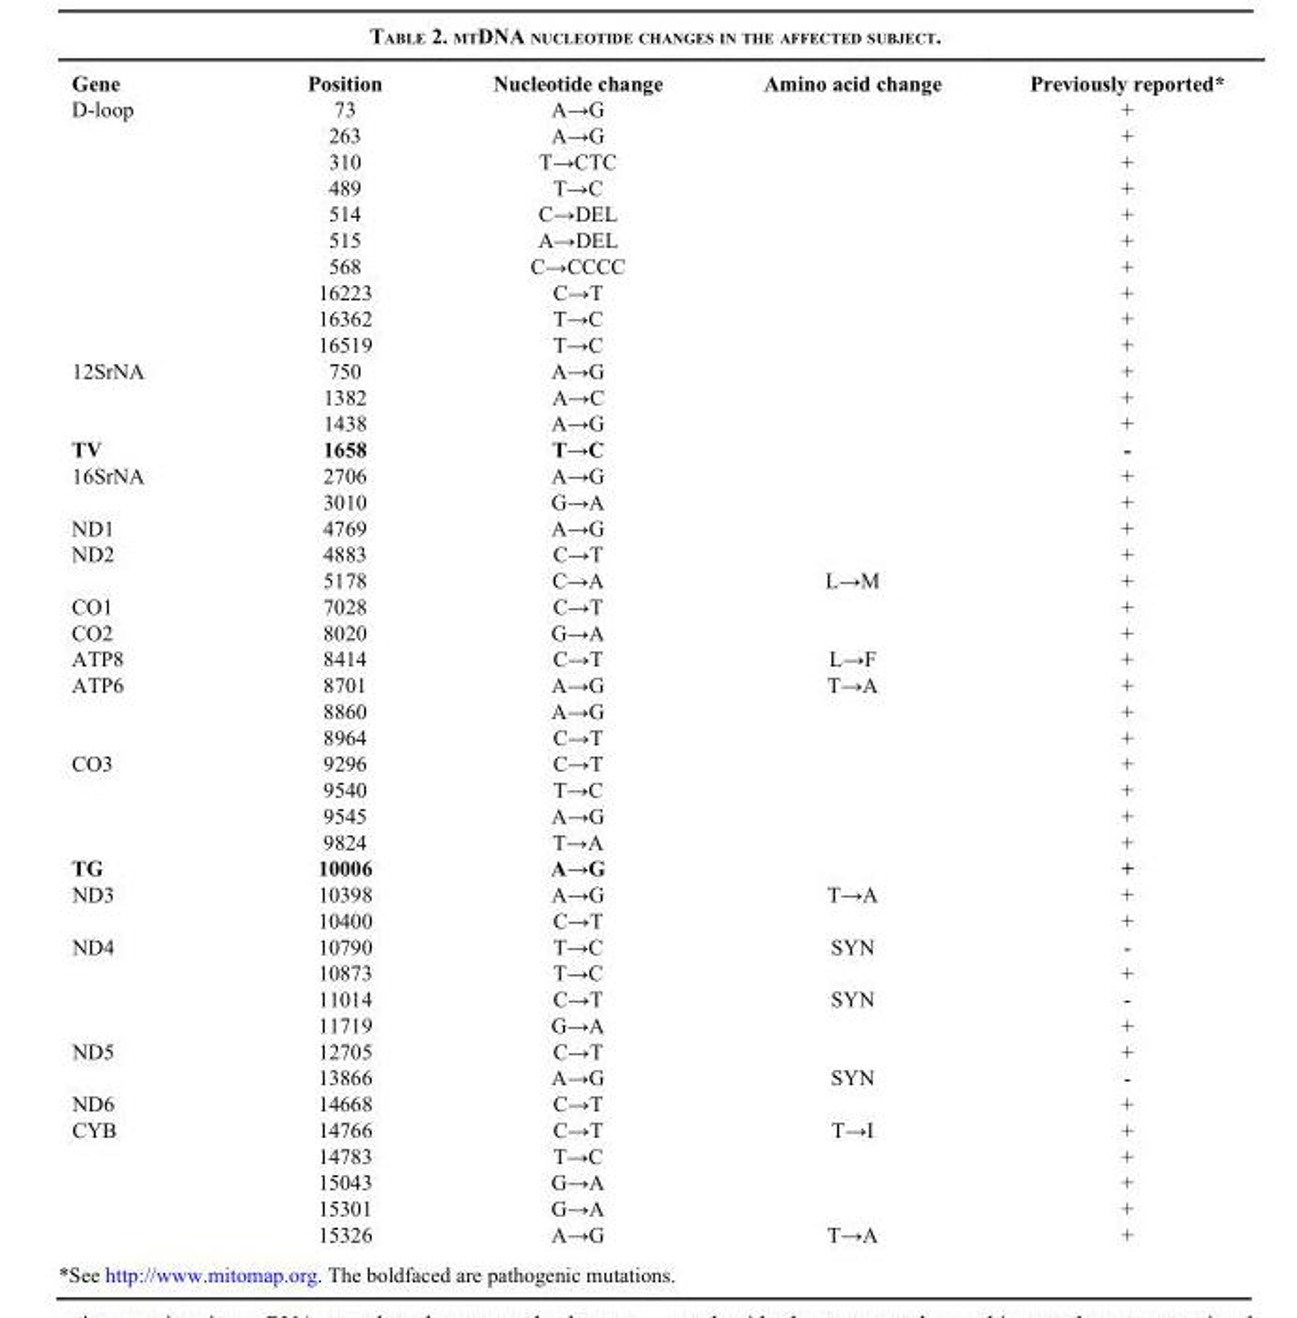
<table><thead><tr><td>Gene</td><td>Position</td><td>Nucleotide change</td><td>Amino acid change</td><td>Previously reported*</td></tr></thead><tbody><tr><td rowspan="10">D-loop</td><td>73</td><td>A→G</td><td></td><td>+</td></tr><tr><td>263</td><td>A→G</td><td></td><td>+</td></tr><tr><td>310</td><td>T→CTC</td><td></td><td>+</td></tr><tr><td>489</td><td>T→C</td><td></td><td>+</td></tr><tr><td>514</td><td>C→DEL</td><td></td><td>+</td></tr><tr><td>515</td><td>A→DEL</td><td></td><td>+</td></tr><tr><td>568</td><td>C→CCCC</td><td></td><td>+</td></tr><tr><td>16223</td><td>C→T</td><td></td><td>+</td></tr><tr><td>16362</td><td>T→C</td><td></td><td>+</td></tr><tr><td>16519</td><td>T→C</td><td></td><td>+</td></tr><tr><td rowspan="3">12SrNA</td><td>750</td><td>A→G</td><td></td><td>+</td></tr><tr><td>1382</td><td>A→C</td><td></td><td>+</td></tr><tr><td>1438</td><td>A→G</td><td></td><td>+</td></tr><tr><td>TV</td><td>1658</td><td>T→C</td><td></td><td>-</td></tr><tr><td rowspan="2">16SrNA</td><td>2706</td><td>A→G</td><td></td><td>+</td></tr><tr><td>3010</td><td>G→A</td><td></td><td>+</td></tr><tr><td>ND1</td><td>4769</td><td>A→G</td><td></td><td>+</td></tr><tr><td rowspan="2">ND2</td><td>4883</td><td>C→T</td><td></td><td>+</td></tr><tr><td>5178</td><td>C→A</td><td>L→M</td><td>+</td></tr><tr><td>CO1</td><td>7028</td><td>C→T</td><td></td><td>+</td></tr><tr><td>CO2</td><td>8020</td><td>G→A</td><td></td><td>+</td></tr><tr><td>ATP8</td><td>8414</td><td>C→T</td><td>L→F</td><td>+</td></tr><tr><td rowspan="3">ATP6</td><td>8701</td><td>A→G</td><td>T→A</td><td>+</td></tr><tr><td>8860</td><td>A→G</td><td></td><td>+</td></tr><tr><td>8964</td><td>C→T</td><td></td><td>+</td></tr><tr><td rowspan="4">CO3</td><td>9296</td><td>C→T</td><td></td><td>+</td></tr><tr><td>9540</td><td>T→C</td><td></td><td>+</td></tr><tr><td>9545</td><td>A→G</td><td></td><td>+</td></tr><tr><td>9824</td><td>T→A</td><td></td><td>+</td></tr><tr><td>TG</td><td>10006</td><td>A→G</td><td></td><td>+</td></tr><tr><td rowspan="2">ND3</td><td>10398</td><td>A→G</td><td>T→A</td><td>+</td></tr><tr><td>10400</td><td>C→T</td><td></td><td>+</td></tr><tr><td rowspan="4">ND4</td><td>10790</td><td>T→C</td><td>SYN</td><td>-</td></tr><tr><td>10873</td><td>T→C</td><td></td><td>+</td></tr><tr><td>11014</td><td>C→T</td><td>SYN</td><td>-</td></tr><tr><td>11719</td><td>G→A</td><td></td><td>+</td></tr><tr><td rowspan="2">ND5</td><td>12705</td><td>C→T</td><td></td><td>+</td></tr><tr><td>13866</td><td>A→G</td><td>SYN</td><td>-</td></tr><tr><td>ND6</td><td>14668</td><td>C→T</td><td></td><td>+</td></tr><tr><td rowspan="5">CYB</td><td>14766</td><td>C→T</td><td>T→I</td><td>+</td></tr><tr><td>14783</td><td>T→C</td><td></td><td>+</td></tr><tr><td>15043</td><td>G→A</td><td></td><td>+</td></tr><tr><td>15301</td><td>G→A</td><td></td><td>+</td></tr><tr><td>15326</td><td>A→G</td><td>T→A</td><td>+</td></tr></tbody></table>